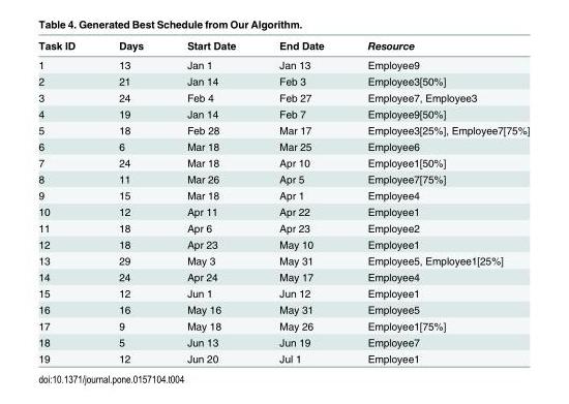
<table><thead><tr><td>Task ID</td><td>Days</td><td>Start Date</td><td>End Date</td><td>Resource</td></tr></thead><tbody><tr><td>1</td><td>13</td><td>Jan 1</td><td>Jan 13</td><td>Employee9</td></tr><tr><td>2</td><td>21</td><td>Jan 14</td><td>Feb 3</td><td>Employee3[50%]</td></tr><tr><td>3</td><td>24</td><td>Feb 4</td><td>Feb 27</td><td>Employee7, Employee3</td></tr><tr><td>4</td><td>19</td><td>Jan 14</td><td>Feb 7</td><td>Employee9[50%]</td></tr><tr><td>5</td><td>18</td><td>Feb 28</td><td>Mar 17</td><td>Employee3[25%], Employee7[75%]</td></tr><tr><td>6</td><td>6</td><td>Mar 18</td><td>Mar 25</td><td>Employee6</td></tr><tr><td>7</td><td>24</td><td>Mar 18</td><td>Apr 10</td><td>Employee1[50%]</td></tr><tr><td>8</td><td>11</td><td>Mar 26</td><td>Apr 5</td><td>Employee7[75%]</td></tr><tr><td>9</td><td>15</td><td>Mar 18</td><td>Apr 1</td><td>Employee4</td></tr><tr><td>10</td><td>12</td><td>Apr 11</td><td>Apr 22</td><td>Employee1</td></tr><tr><td>11</td><td>18</td><td>Apr 6</td><td>Apr 23</td><td>Employee2</td></tr><tr><td>12</td><td>18</td><td>Apr 23</td><td>May 10</td><td>Employee1</td></tr><tr><td>13</td><td>29</td><td>May 3</td><td>May 31</td><td>Employee5, Employee1[25%]</td></tr><tr><td>14</td><td>24</td><td>Apr 24</td><td>May 17</td><td>Employee4</td></tr><tr><td>15</td><td>12</td><td>Jun 1</td><td>Jun 12</td><td>Employee1</td></tr><tr><td>16</td><td>16</td><td>May 16</td><td>May 31</td><td>Employee5</td></tr><tr><td>17</td><td>9</td><td>May 18</td><td>May 26</td><td>Employee1[75%]</td></tr><tr><td>18</td><td>5</td><td>Jun 13</td><td>Jun 19</td><td>Employee7</td></tr><tr><td>19</td><td>12</td><td>Jun 20</td><td>Jul 1</td><td>Employee1</td></tr></tbody></table>